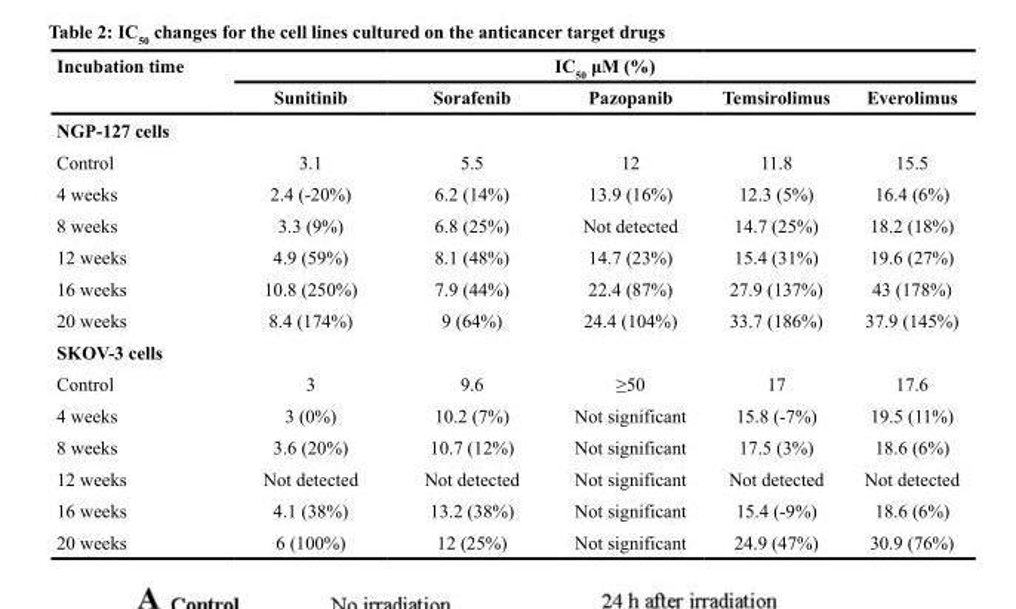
<table><thead><tr><td rowspan="2">Incubation time</td><td colspan="5">IC<sub>50</sub> μM (%)</td></tr><tr><td>Sunitinib</td><td>Sorafenib</td><td>Pazopanib</td><td>Temsirolimus</td><td>Everolimus</td></tr></thead><tbody><tr><td colspan="6">NGP-127 cells</td></tr><tr><td>Control</td><td>3.1</td><td>5.5</td><td>12</td><td>11.8</td><td>15.5</td></tr><tr><td>4 weeks</td><td>2.4 (-20%)</td><td>6.2 (14%)</td><td>13.9 (16%)</td><td>12.3 (5%)</td><td>16.4 (6%)</td></tr><tr><td>8 weeks</td><td>3.3 (9%)</td><td>6.8 (25%)</td><td>Not detected</td><td>14.7 (25%)</td><td>18.2 (18%)</td></tr><tr><td>12 weeks</td><td>4.9 (59%)</td><td>8.1 (48%)</td><td>14.7 (23%)</td><td>15.4 (31%)</td><td>19.6 (27%)</td></tr><tr><td>16 weeks</td><td>10.8 (250%)</td><td>7.9 (44%)</td><td>22.4 (87%)</td><td>27.9 (137%)</td><td>43 (178%)</td></tr><tr><td>20 weeks</td><td>8.4 (174%)</td><td>9 (64%)</td><td>24.4 (104%)</td><td>33.7 (186%)</td><td>37.9 (145%)</td></tr><tr><td colspan="6">SKOV-3 cells</td></tr><tr><td>Control</td><td>3</td><td>9.6</td><td>≥50</td><td>17</td><td>17.6</td></tr><tr><td>4 weeks</td><td>3 (0%)</td><td>10.2 (7%)</td><td>Not significant</td><td>15.8 (-7%)</td><td>19.5 (11%)</td></tr><tr><td>8 weeks</td><td>3.6 (20%)</td><td>10.7 (12%)</td><td>Not significant</td><td>17.5 (3%)</td><td>18.6 (6%)</td></tr><tr><td>12 weeks</td><td>Not detected</td><td>Not detected</td><td>Not significant</td><td>Not detected</td><td>Not detected</td></tr><tr><td>16 weeks</td><td>4.1 (38%)</td><td>13.2 (38%)</td><td>Not significant</td><td>15.4 (-9%)</td><td>18.6 (6%)</td></tr><tr><td>20 weeks</td><td>6 (100%)</td><td>12 (25%)</td><td>Not significant</td><td>24.9 (47%)</td><td>30.9 (76%)</td></tr></tbody></table>